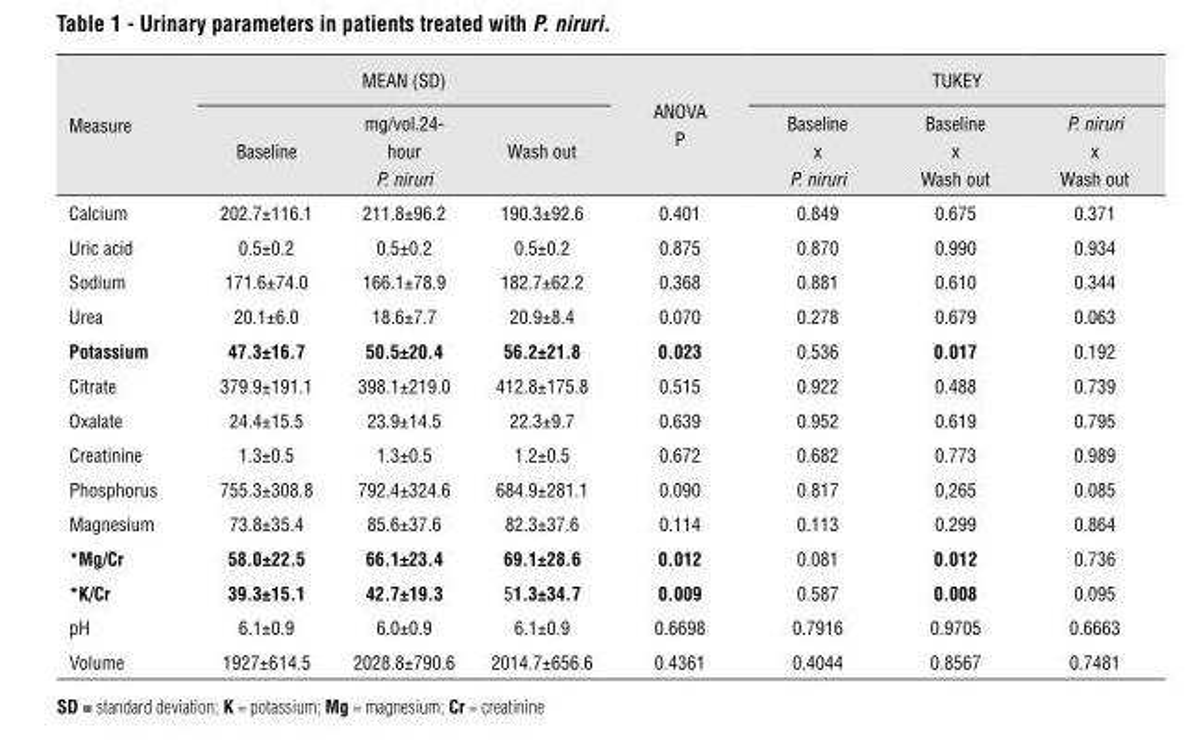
<table><thead><tr><td rowspan="2">Measure</td><td colspan="3">MEAN (SD)</td><td rowspan="2">ANOVA P</td><td colspan="3">TUKEY</td></tr><tr><td>Baseline</td><td>mg/vol.24- hour P. niruri</td><td>Wash out</td><td>Baseline x P. niruri</td><td>Baseline x Wash out</td><td>P. niruri x Wash out</td></tr></thead><tbody><tr><td>Calcium</td><td>202.7±116.1</td><td>211.8±96.2</td><td>190.3±92.6</td><td>0.401</td><td>0.849</td><td>0.675</td><td>0.371</td></tr><tr><td>Uric acid</td><td>0.5±0.2</td><td>0.5±0.2</td><td>0.5±0.2</td><td>0.875</td><td>0.870</td><td>0.990</td><td>0.934</td></tr><tr><td>Sodium</td><td>171.6±74.0</td><td>166.1±78.9</td><td>182.7±62.2</td><td>0.368</td><td>0.881</td><td>0.610</td><td>0.344</td></tr><tr><td>Urea</td><td>20.1±6.0</td><td>18.6±7.7</td><td>20.9±8.4</td><td>0.070</td><td>0.278</td><td>0.679</td><td>0.063</td></tr><tr><td>potassium</td><td>47.3±16.7</td><td>50.5±20.4</td><td>56.2±21.8</td><td>0.023</td><td>0.536</td><td>0.017</td><td>0.192</td></tr><tr><td>Citrate</td><td>379.9±191.1</td><td>398.1±219.0</td><td>412.8±175.8</td><td>0.515</td><td>0.922</td><td>0.488</td><td>0.739</td></tr><tr><td>Oxalate</td><td>24.4±15.5</td><td>23.9±14.5</td><td>22.3±9.7</td><td>0.639</td><td>0.952</td><td>0.619</td><td>0.795</td></tr><tr><td>Creatinine</td><td>1.3±0.5</td><td>1.3±0.5</td><td>1.2±0.5</td><td>0.672</td><td>0.682</td><td>0.773</td><td>0.989</td></tr><tr><td>Phosphorus</td><td>755.3±308.8</td><td>792.4±324.6</td><td>684.9±281.1</td><td>0.090</td><td>0.817</td><td>0,265</td><td>0.085</td></tr><tr><td>Magnesium</td><td>73.8±35.4</td><td>85.6±37.6</td><td>82.3±37.6</td><td>0.114</td><td>0.113</td><td>0.299</td><td>0.864</td></tr><tr><td>*Mg/cr</td><td>58.0±22.5</td><td>66.1±23.4</td><td>69.1±28.6</td><td>0.012</td><td>0.081</td><td>0.012</td><td>0.736</td></tr><tr><td>*K/cr</td><td>39.3±15.1</td><td>42.7±19.3</td><td>51.3±34.7</td><td>0.009</td><td>0.587</td><td>0.008</td><td>0.095</td></tr><tr><td>pH</td><td>6.1±0.9</td><td>6.0±0.9</td><td>6.1±0.9</td><td>0.6698</td><td>0.7916</td><td>0.9705</td><td>0.6663</td></tr><tr><td>Volume</td><td>1927±614.5</td><td>2028.8±790.6</td><td>2014.7±656.6</td><td>0.4361</td><td>0.4044</td><td>0.8567</td><td>0.7481</td></tr></tbody></table>